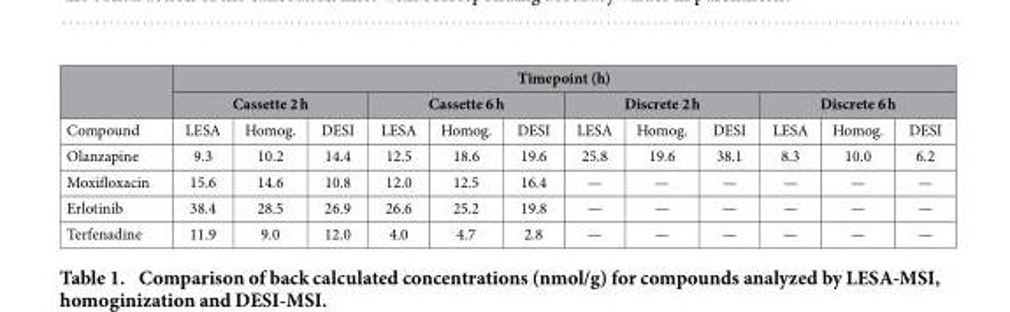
<table><thead><tr><td rowspan="3">Compound</td><td colspan="12">Timepoint (h)</td></tr><tr><td colspan="3">Cassette 2 h</td><td colspan="3">Cassette 6 h</td><td colspan="3">Discrete 2 h</td><td colspan="3">Discrete 6 h</td></tr><tr><td>LESA</td><td>Homog.</td><td>DESI</td><td>LESA</td><td>Homog.</td><td>DESI</td><td>LESA</td><td>Homog.</td><td>DESI</td><td>LESA</td><td>Homog.</td><td>DESI</td></tr></thead><tbody><tr><td>Olanzapine</td><td>9.3</td><td>10.2</td><td>14.4</td><td>12.5</td><td>18.6</td><td>19.6</td><td>25.8</td><td>19.6</td><td>38.1</td><td>8.3</td><td>10.0</td><td>6.2</td></tr><tr><td>Moxifloxacin</td><td>15.6</td><td>14.6</td><td>10.8</td><td>12.0</td><td>12.5</td><td>16.4</td><td>—</td><td>—</td><td>—</td><td>—</td><td>—</td><td>—</td></tr><tr><td>Erlotinib</td><td>38.4</td><td>28.5</td><td>26.9</td><td>26.6</td><td>25.2</td><td>19.8</td><td>—</td><td>—</td><td>—</td><td>—</td><td>—</td><td>—</td></tr><tr><td>Terfenadine</td><td>11.9</td><td>9.0</td><td>12.0</td><td>4.0</td><td>4.7</td><td>2.8</td><td>—</td><td>—</td><td>—</td><td>—</td><td>—</td><td>—</td></tr></tbody></table>